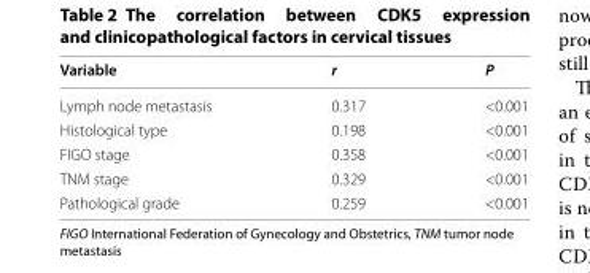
<table><thead><tr><td>Variable</td><td>r</td><td>P</td></tr></thead><tbody><tr><td>Lymph node metastasis</td><td>0.317</td><td>&lt;0.001</td></tr><tr><td>Histological type</td><td>0.198</td><td>&lt;0.001</td></tr><tr><td>FIGO stage</td><td>0.358</td><td>&lt;0.001</td></tr><tr><td>TNM stage</td><td>0.329</td><td>&lt;0.001</td></tr><tr><td>Pathological grade</td><td>0.259</td><td>&lt;0.001</td></tr></tbody></table>